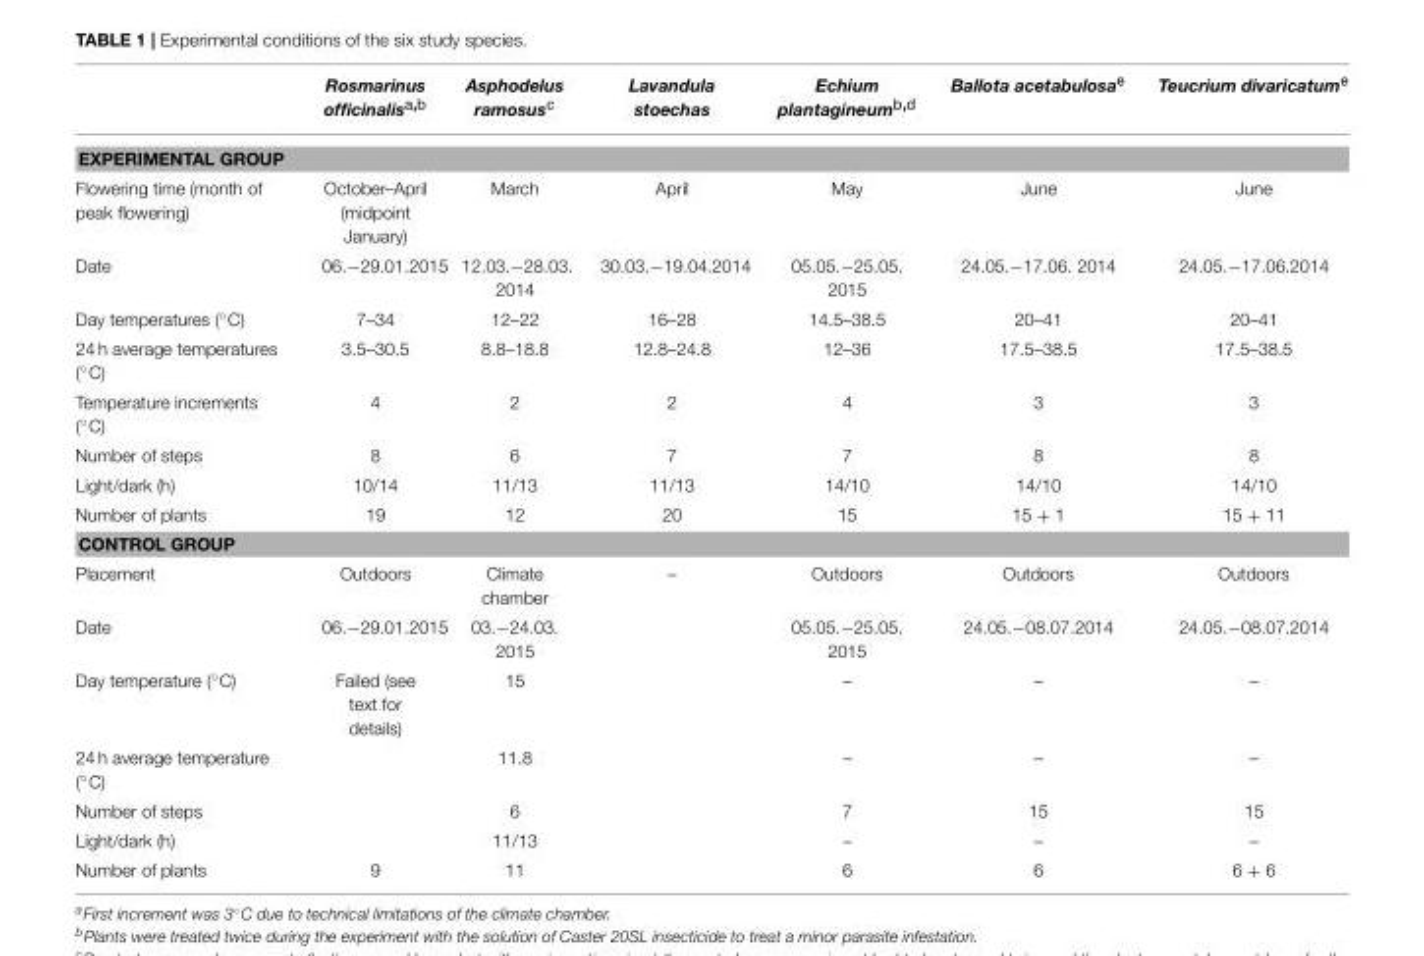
<table><thead><tr><td></td><td>Rosmarinus officinalis<sup>a,b</sup></td><td>Asphodelus ramosus<sup>c</sup></td><td>Lavandula stoechas</td><td>Echium plantagineum<sup>b,d</sup></td><td>Ballota acetabulosa<sup>e</sup></td><td>Teucrium divaricatum<sup>e</sup></td></tr></thead><tbody><tr><td colspan="7">EXPERIMENTAL GROUP</td></tr><tr><td>Flowering time (month of peak flowering)</td><td>October–April (midpoint January)</td><td>March</td><td>April</td><td>May</td><td>June</td><td>June</td></tr><tr><td>Date</td><td>06.−29.01.2015</td><td>12.03.−28.03. 2014</td><td>30.03.−19.04.2014</td><td>05.05.−25.05. 2015</td><td>24.05.−17.06. 2014</td><td>24.05.−17.06.2014</td></tr><tr><td>Day temperatures (◦C)</td><td>7–34</td><td>12–22</td><td>16–28</td><td>14.5–38.5</td><td>20–41</td><td>20–41</td></tr><tr><td>24 h average temperatures (◦C)</td><td>3.5–30.5</td><td>8.8–18.8</td><td>12.8–24.8</td><td>12–36</td><td>17.5–38.5</td><td>17.5–38.5</td></tr><tr><td>Temperature increments (◦C)</td><td>4</td><td>2</td><td>2</td><td>4</td><td>3</td><td>3</td></tr><tr><td>Number of steps</td><td>8</td><td>6</td><td>7</td><td>7</td><td>8</td><td>8</td></tr><tr><td>Light/dark (h)</td><td>10/14</td><td>11/13</td><td>11/13</td><td>14/10</td><td>14/10</td><td>14/10</td></tr><tr><td>Number of plants</td><td>19</td><td>12</td><td>20</td><td>15</td><td>15 + 1</td><td>15 + 11</td></tr><tr><td colspan="7">CONTROL GROUP</td></tr><tr><td>Placement</td><td>Outdoors</td><td>Climate chamber</td><td>–</td><td>Outdoors</td><td>Outdoors</td><td>Outdoors</td></tr><tr><td>Date</td><td>06.−29.01.2015</td><td>03.−24.03. 2015</td><td></td><td>05.05.−25.05. 2015</td><td>24.05.−08.07.2014</td><td>24.05.−08.07.2014</td></tr><tr><td>Day temperature (◦C)</td><td>Failed (see text for details)</td><td>15</td><td></td><td>–</td><td>–</td><td>–</td></tr><tr><td>24 h average temperature (◦C)</td><td></td><td>11.8</td><td></td><td>–</td><td>–</td><td>–</td></tr><tr><td>Number of steps</td><td></td><td>6</td><td></td><td>7</td><td>15</td><td>15</td></tr><tr><td>Light/dark (h)</td><td></td><td>11/13</td><td></td><td>–</td><td>–</td><td>–</td></tr><tr><td>Number of plants</td><td>9</td><td>11</td><td></td><td>6</td><td>6</td><td>6 + 6</td></tr></tbody></table>